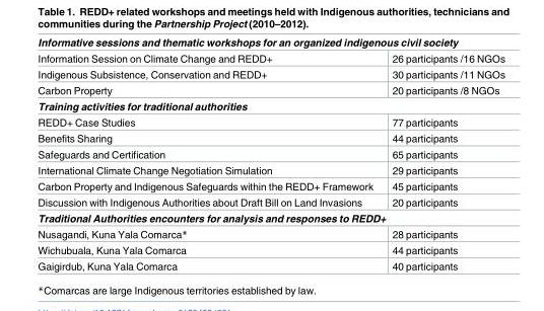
<table><tbody><tr><td colspan="2">Informative sessions and thematic workshops for an organized indigenous civil society</td></tr><tr><td>Information Session on Climate Change and REDD+</td><td>26 participants /16 NGOs</td></tr><tr><td>Indigenous Subsistence, Conservation and REDD+</td><td>30 participants /11 NGOs</td></tr><tr><td>Carbon Property</td><td>20 participants /8 NGOs</td></tr><tr><td colspan="2">Training activities for traditional authorities</td></tr><tr><td>REDD+ Case Studies</td><td>77 participants</td></tr><tr><td>Benefits Sharing</td><td>44 participants</td></tr><tr><td>Safeguards and Certification</td><td>65 participants</td></tr><tr><td>International Climate Change Negotiation Simulation</td><td>29 participants</td></tr><tr><td>Carbon Property and Indigenous Safeguards within the REDD+ Framework</td><td>45 participants</td></tr><tr><td>Discussion with Indigenous Authorities about Draft Bill on Land Invasions</td><td>20 participants</td></tr><tr><td colspan="2">Traditional Authorities encounters for analysis and responses to REDD+</td></tr><tr><td>Nusagandi, Kuna Yala Comarca*</td><td>28 participants</td></tr><tr><td>Wichubuala, Kuna Yala Comarca</td><td>44 participants</td></tr><tr><td>Gaigirdub, Kuna Yala Comarca</td><td>40 participants</td></tr></tbody></table>